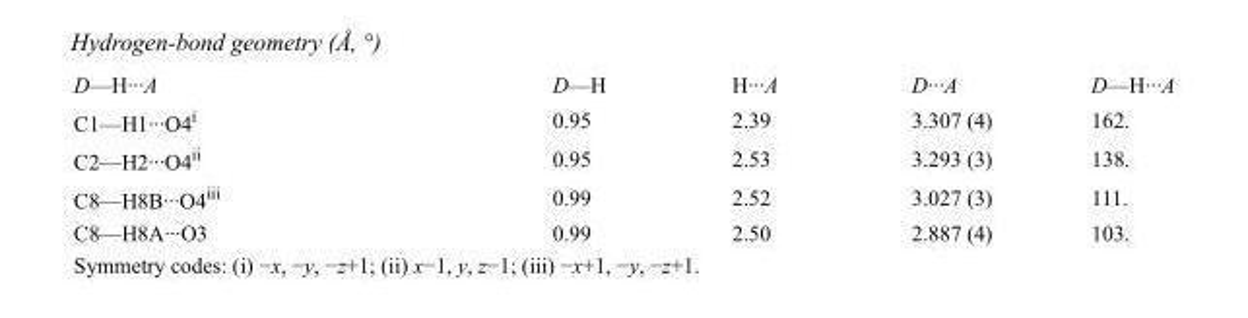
<table><tbody><tr><td>D—H···A</td><td>D—H</td><td>H···A</td><td>D···A</td><td>D—H···A</td></tr><tr><td>C1—H1···O4<sup>i</sup></td><td>0.95</td><td>2.39</td><td>3.307 (4)</td><td>162.</td></tr><tr><td>C2—H2···O4<sup>ii</sup></td><td>0.95</td><td>2.53</td><td>3.293 (3)</td><td>138.</td></tr><tr><td>C8—H8B···O4<sup>iii</sup></td><td>0.99</td><td>2.52</td><td>3.027 (3)</td><td>111.</td></tr><tr><td>C8—H8A···O3</td><td>0.99</td><td>2.50</td><td>2.887 (4)</td><td>103.</td></tr></tbody></table>